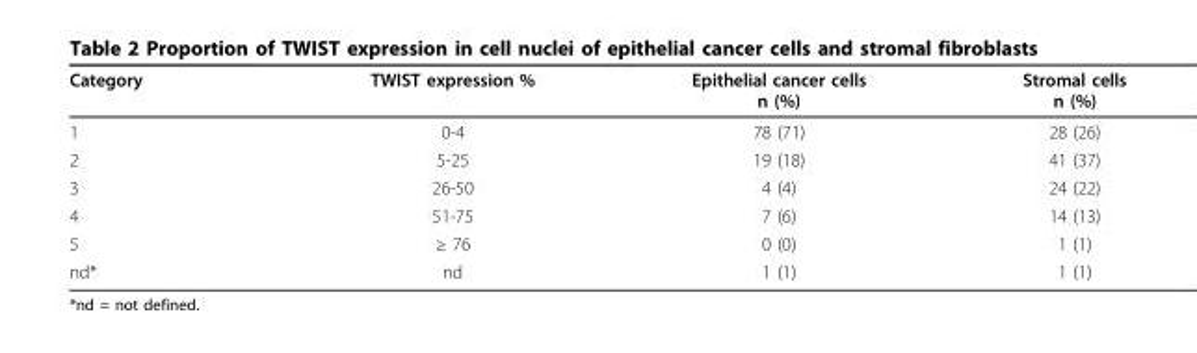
<table><thead><tr><td>Category</td><td>TWIST expression %</td><td>Epithelial cancer cells n (%)</td><td>Stromal cells n (%)</td></tr></thead><tbody><tr><td>1</td><td>0-4</td><td>78 (71)</td><td>28 (26)</td></tr><tr><td>2</td><td>5-25</td><td>19 (18)</td><td>41 (37)</td></tr><tr><td>3</td><td>26-50</td><td>4 (4)</td><td>24 (22)</td></tr><tr><td>4</td><td>51-75</td><td>7 (6)</td><td>14 (13)</td></tr><tr><td>5</td><td>≥ 76</td><td>0 (0)</td><td>1 (1)</td></tr><tr><td>nd*</td><td>nd</td><td>1 (1)</td><td>1 (1)</td></tr></tbody></table>